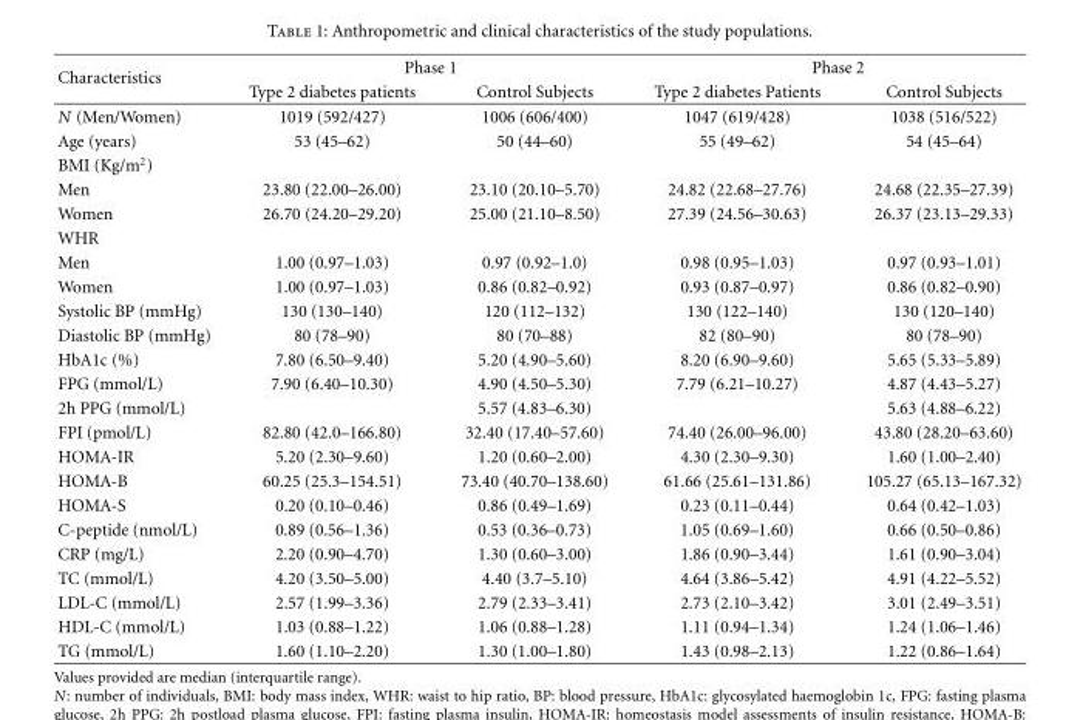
<table><thead><tr><td rowspan="2">Characteristics</td><td colspan="2">Phase 1</td><td colspan="2">Phase 2</td></tr><tr><td>Type 2 diabetes patients</td><td>Control Subjects</td><td>Type 2 diabetes Patients</td><td>Control Subjects</td></tr></thead><tbody><tr><td>N (Men/Women)</td><td>1019 (592/427)</td><td>1006 (606/400)</td><td>1047 (619/428)</td><td>1038 (516/522)</td></tr><tr><td>Age (years)</td><td>53 (45–62)</td><td>50 (44–60)</td><td>55 (49–62)</td><td>54 (45–64)</td></tr><tr><td colspan="5">BMI (Kg/m<sup>2</sup>)</td></tr><tr><td>Men</td><td>23.80 (22.00–26.00)</td><td>23.10 (20.10–5.70)</td><td>24.82 (22.68–27.76)</td><td>24.68 (22.35–27.39)</td></tr><tr><td>Women</td><td>26.70 (24.20–29.20)</td><td>25.00 (21.10–8.50)</td><td>27.39 (24.56–30.63)</td><td>26.37 (23.13–29.33)</td></tr><tr><td colspan="5">WHR</td></tr><tr><td>Men</td><td>1.00 (0.97–1.03)</td><td>0.97 (0.92–1.0)</td><td>0.98 (0.95–1.03)</td><td>0.97 (0.93–1.01)</td></tr><tr><td>Women</td><td>1.00 (0.97–1.03)</td><td>0.86 (0.82–0.92)</td><td>0.93 (0.87–0.97)</td><td>0.86 (0.82–0.90)</td></tr><tr><td>Systolic BP (mmHg)</td><td>130 (130–140)</td><td>120 (112–132)</td><td>130 (122–140)</td><td>130 (120–140)</td></tr><tr><td>Diastolic BP (mmHg)</td><td>80 (78–90)</td><td>80 (70–88)</td><td>82 (80–90)</td><td>80 (78–90)</td></tr><tr><td>HbA1c (%)</td><td>7.80 (6.50–9.40)</td><td>5.20 (4.90–5.60)</td><td>8.20 (6.90–9.60)</td><td>5.65 (5.33–5.89)</td></tr><tr><td>FPG (mmol/L)</td><td>7.90 (6.40–10.30)</td><td>4.90 (4.50–5.30)</td><td>7.79 (6.21–10.27)</td><td>4.87 (4.43–5.27)</td></tr><tr><td>2h PPG (mmol/L)</td><td></td><td>5.57 (4.83–6.30)</td><td></td><td>5.63 (4.88–6.22)</td></tr><tr><td>FPI (pmol/L)</td><td>82.80 (42.0–166.80)</td><td>32.40 (17.40–57.60)</td><td>74.40 (26.00–96.00)</td><td>43.80 (28.20–63.60)</td></tr><tr><td>HOMA-IR</td><td>5.20 (2.30–9.60)</td><td>1.20 (0.60–2.00)</td><td>4.30 (2.30–9.30)</td><td>1.60 (1.00–2.40)</td></tr><tr><td>HOMA-B</td><td>60.25 (25.3–154.51)</td><td>73.40 (40.70–138.60)</td><td>61.66 (25.61–131.86)</td><td>105.27 (65.13–167.32)</td></tr><tr><td>HOMA-S</td><td>0.20 (0.10–0.46)</td><td>0.86 (0.49–1.69)</td><td>0.23 (0.11–0.44)</td><td>0.64 (0.42–1.03)</td></tr><tr><td>C-peptide (nmol/L)</td><td>0.89 (0.56–1.36)</td><td>0.53 (0.36–0.73)</td><td>1.05 (0.69–1.60)</td><td>0.66 (0.50–0.86)</td></tr><tr><td>CRP (mg/L)</td><td>2.20 (0.90–4.70)</td><td>1.30 (0.60–3.00)</td><td>1.86 (0.90–3.44)</td><td>1.61 (0.90–3.04)</td></tr><tr><td>TC (mmol/L)</td><td>4.20 (3.50–5.00)</td><td>4.40 (3.7–5.10)</td><td>4.64 (3.86–5.42)</td><td>4.91 (4.22–5.52)</td></tr><tr><td>LDL-C (mmol/L)</td><td>2.57 (1.99–3.36)</td><td>2.79 (2.33–3.41)</td><td>2.73 (2.10–3.42)</td><td>3.01 (2.49–3.51)</td></tr><tr><td>HDL-C (mmol/L)</td><td>1.03 (0.88–1.22)</td><td>1.06 (0.88–1.28)</td><td>1.11 (0.94–1.34)</td><td>1.24 (1.06–1.46)</td></tr><tr><td>TG (mmol/L)</td><td>1.60 (1.10–2.20)</td><td>1.30 (1.00–1.80)</td><td>1.43 (0.98–2.13)</td><td>1.22 (0.86–1.64)</td></tr></tbody></table>